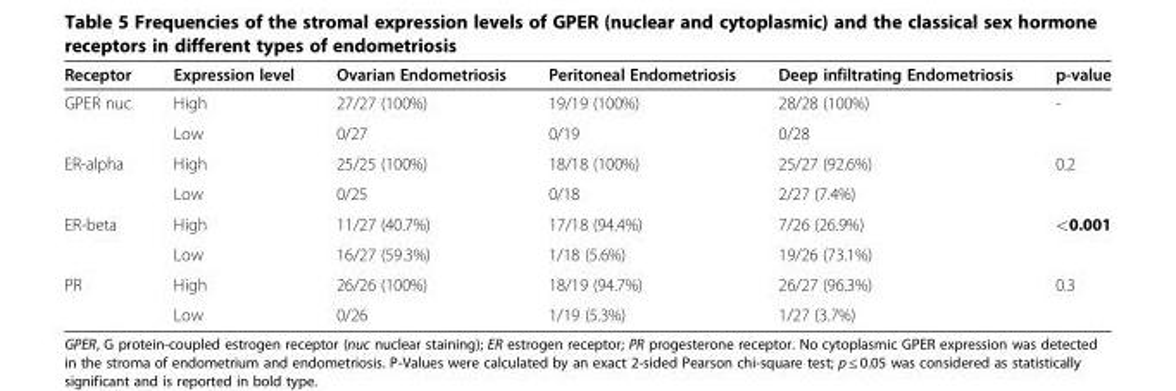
<table><thead><tr><td>Receptor</td><td>Expression level</td><td>Ovarian Endometriosis</td><td>Peritoneal Endometriosis</td><td>Deep infiltrating Endometriosis</td><td>p-value</td></tr></thead><tbody><tr><td rowspan="2">GPER nuc</td><td>High</td><td>27/27 (100%)</td><td>19/19 (100%)</td><td>28/28 (100%)</td><td>-</td></tr><tr><td>Low</td><td>0/27</td><td>0/19</td><td>0/28</td><td></td></tr><tr><td rowspan="2">ER-alpha</td><td>High</td><td>25/25 (100%)</td><td>18/18 (100%)</td><td>25/27 (92.6%)</td><td>0.2</td></tr><tr><td>Low</td><td>0/25</td><td>0/18</td><td>2/27 (7.4%)</td><td></td></tr><tr><td rowspan="2">ER-beta</td><td>High</td><td>11/27 (40.7%)</td><td>17/18 (94.4%)</td><td>7/26 (26.9%)</td><td>&lt;0.001</td></tr><tr><td>Low</td><td>16/27 (59.3%)</td><td>1/18 (5.6%)</td><td>19/26 (73.1%)</td><td></td></tr><tr><td rowspan="2">PR</td><td>High</td><td>26/26 (100%)</td><td>18/19 (94.7%)</td><td>26/27 (96.3%)</td><td>0.3</td></tr><tr><td>Low</td><td>0/26</td><td>1/19 (5.3%)</td><td>1/27 (3.7%)</td><td></td></tr></tbody></table>